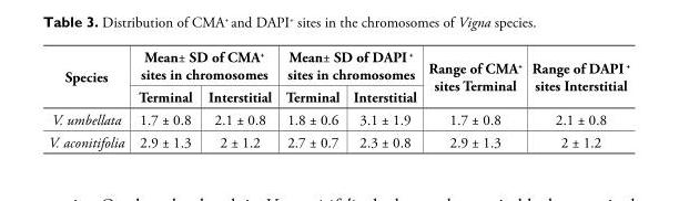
<table><thead><tr><td rowspan="2">Species</td><td colspan="2">Mean± SD of CMA<sup>+</sup> sites in chromosomes</td><td colspan="2">Mean± SD of DAPI <sup>+</sup> sites in chromosomes</td><td rowspan="2">Range of CMA<sup>+</sup> sites Terminal</td><td rowspan="2">Range of DAPI <sup>+</sup> sites Interstitial</td></tr><tr><td>Terminal</td><td>Interstitial</td><td>Terminal</td><td>Interstitial</td></tr></thead><tbody><tr><td>V. umbellata</td><td>1.7 ± 0.8</td><td>2.1 ± 0.8</td><td>1.8 ± 0.6</td><td>3.1 ± 1.9</td><td>1.7 ± 0.8</td><td>2.1 ± 0.8</td></tr><tr><td>V. aconitifolia</td><td>2.9 ± 1.3</td><td>2 ± 1.2</td><td>2.7 ± 0.7</td><td>2.3 ± 0.8</td><td>2.9 ± 1.3</td><td>2 ± 1.2</td></tr></tbody></table>